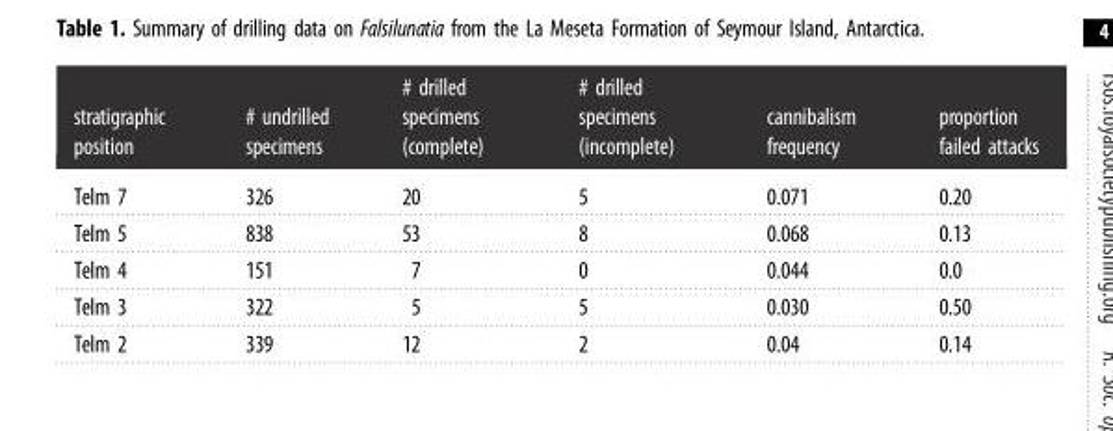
<table><thead><tr><td>stratigraphic position</td><td># undrilled specimens</td><td># drilled specimens (complete)</td><td># drilled specimens (incomplete)</td><td>cannibalism frequency</td><td>proportion failed attacks</td></tr></thead><tbody><tr><td>Telm 7</td><td>326</td><td>20</td><td>5</td><td>0.071</td><td>0.20</td></tr><tr><td>Telm 5</td><td>838</td><td>53</td><td>8</td><td>0.068</td><td>0.13</td></tr><tr><td>Telm 4</td><td>151</td><td>7</td><td>0</td><td>0.044</td><td>0.0</td></tr><tr><td>Telm 3</td><td>322</td><td>5</td><td>5</td><td>0.030</td><td>0.50</td></tr><tr><td>Telm 2</td><td>339</td><td>12</td><td>2</td><td>0.04</td><td>0.14</td></tr></tbody></table>